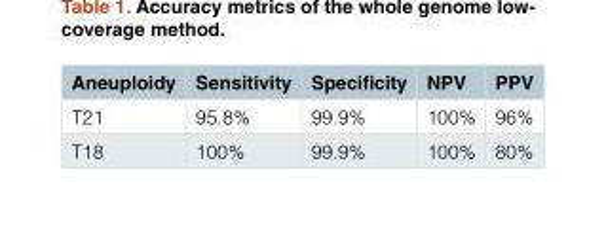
<table><thead><tr><td>Aneuploidy</td><td>Sensitivity</td><td>Specificity</td><td>NPV</td><td>PPV</td></tr></thead><tbody><tr><td>T21</td><td>95.8%</td><td>99.9%</td><td>100%</td><td>96%</td></tr><tr><td>T18</td><td>100%</td><td>99.9%</td><td>100%</td><td>80%</td></tr></tbody></table>